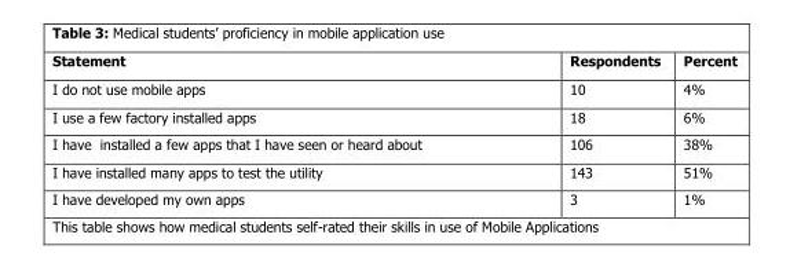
<table><thead><tr><td>Statement</td><td>Respondents</td><td>Percent</td></tr></thead><tbody><tr><td>I do not use mobile apps</td><td>10</td><td>4%</td></tr><tr><td>I use a few factory installed apps</td><td>18</td><td>6%</td></tr><tr><td>I have installed a few apps that I have seen or heard about</td><td>106</td><td>38%</td></tr><tr><td>I have installed many apps to test the utility</td><td>143</td><td>51%</td></tr><tr><td>I have developed my own apps</td><td>3</td><td>1%</td></tr></tbody></table>